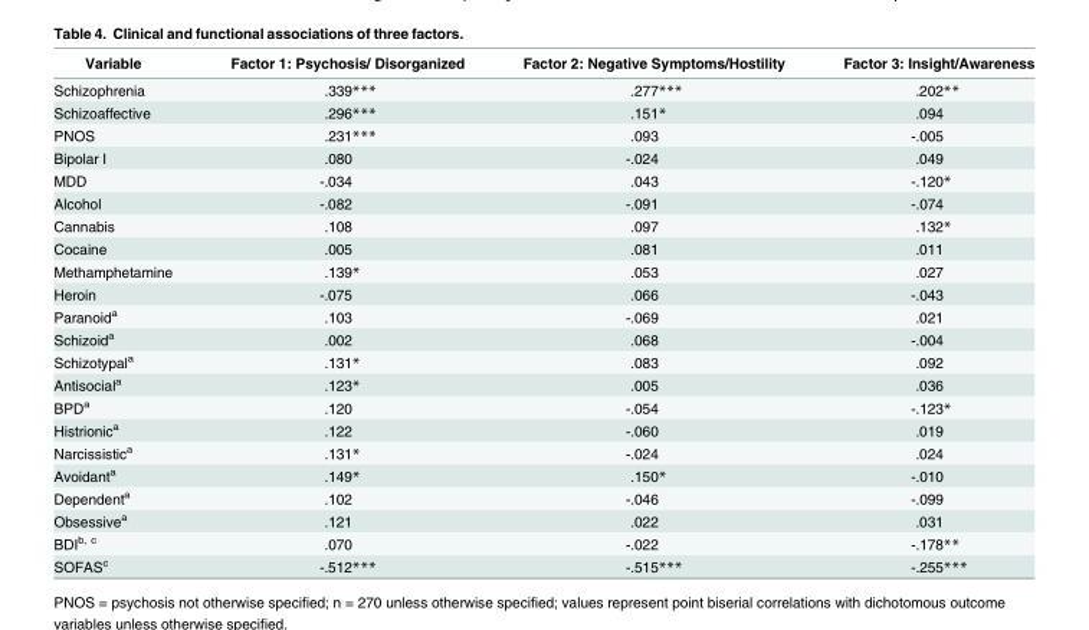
<table><thead><tr><td>Variable</td><td>Factor 1: Psychosis/ Disorganized</td><td>Factor 2: Negative Symptoms/Hostility</td><td>Factor 3: Insight/Awareness</td></tr></thead><tbody><tr><td>Schizophrenia</td><td>.339***</td><td>.277***</td><td>.202**</td></tr><tr><td>Schizoaffective</td><td>.296***</td><td>.151*</td><td>.094</td></tr><tr><td>PNOS</td><td>.231***</td><td>.093</td><td>-.005</td></tr><tr><td>Bipolar I</td><td>.080</td><td>-.024</td><td>.049</td></tr><tr><td>MDD</td><td>-.034</td><td>.043</td><td>-.120*</td></tr><tr><td>Alcohol</td><td>-.082</td><td>-.091</td><td>-.074</td></tr><tr><td>Cannabis</td><td>.108</td><td>.097</td><td>.132*</td></tr><tr><td>Cocaine</td><td>.005</td><td>.081</td><td>.011</td></tr><tr><td>Methamphetamine</td><td>.139*</td><td>.053</td><td>.027</td></tr><tr><td>Heroin</td><td>-.075</td><td>.066</td><td>-.043</td></tr><tr><td>Paranoid<sup>a</sup></td><td>.103</td><td>-.069</td><td>.021</td></tr><tr><td>Schizoid<sup>a</sup></td><td>.002</td><td>.068</td><td>-.004</td></tr><tr><td>Schizotypal<sup>a</sup></td><td>.131*</td><td>.083</td><td>.092</td></tr><tr><td>Antisocial<sup>a</sup></td><td>.123*</td><td>.005</td><td>.036</td></tr><tr><td>BPD<sup>a</sup></td><td>.120</td><td>-.054</td><td>-.123*</td></tr><tr><td>Histrionic<sup>a</sup></td><td>.122</td><td>-.060</td><td>.019</td></tr><tr><td>Narcissistic<sup>a</sup></td><td>.131*</td><td>-.024</td><td>.024</td></tr><tr><td>Avoidant<sup>a</sup></td><td>.149*</td><td>.150*</td><td>-.010</td></tr><tr><td>Dependent<sup>a</sup></td><td>.102</td><td>-.046</td><td>-.099</td></tr><tr><td>Obsessive<sup>a</sup></td><td>.121</td><td>.022</td><td>.031</td></tr><tr><td>BDI<sup>b, c</sup></td><td>.070</td><td>-.022</td><td>-.178**</td></tr><tr><td>SOFAS<sup>c</sup></td><td>-.512***</td><td>-.515***</td><td>-.255***</td></tr></tbody></table>